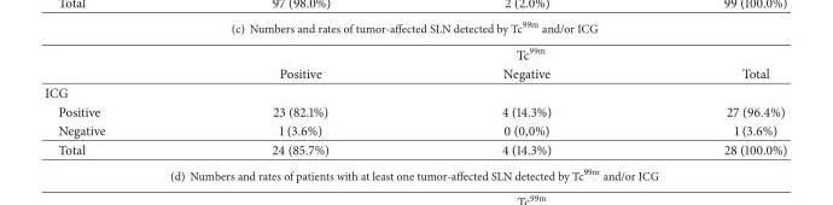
<table><thead><tr><td rowspan="2"></td><td colspan="3">Tc<sup>99m</sup></td></tr><tr><td>Positive</td><td>Negative</td><td>Total</td></tr></thead><tbody><tr><td colspan="4">ICG</td></tr><tr><td>Positive</td><td>23 (82.1%)</td><td>4 (14.3%)</td><td>27 (96.4%)</td></tr><tr><td>Negative</td><td>1 (3.6%)</td><td>0 (0,0%)</td><td>1 (3.6%)</td></tr><tr><td>Total</td><td>24 (85.7%)</td><td>4 (14.3%)</td><td>28 (100.0%)</td></tr></tbody></table>